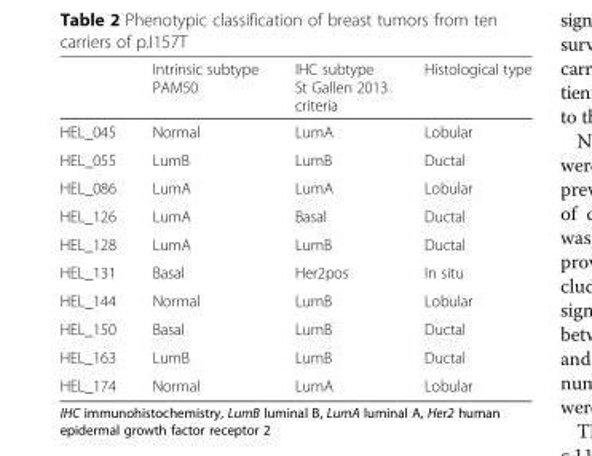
<table><thead><tr><td></td><td>Intrinsic subtype PAM50</td><td>IHC subtype St Gallen 2013 criteria</td><td>Histological type</td></tr></thead><tbody><tr><td>HEL_045</td><td>Normal</td><td>LumA</td><td>Lobular</td></tr><tr><td>HEL_055</td><td>LumB</td><td>LumB</td><td>Ductal</td></tr><tr><td>HEL_086</td><td>LumA</td><td>LumA</td><td>Lobular</td></tr><tr><td>HEL_126</td><td>LumA</td><td>Basal</td><td>Ductal</td></tr><tr><td>HEL_128</td><td>LumA</td><td>LumB</td><td>Ductal</td></tr><tr><td>HEL_131</td><td>Basal</td><td>Her2pos</td><td>In situ</td></tr><tr><td>HEL_144</td><td>Normal</td><td>LumB</td><td>Lobular</td></tr><tr><td>HEL_150</td><td>Basal</td><td>LumB</td><td>Ductal</td></tr><tr><td>HEL_163</td><td>LumB</td><td>LumB</td><td>Ductal</td></tr><tr><td>HEL_174</td><td>Normal</td><td>LumA</td><td>Lobular</td></tr></tbody></table>